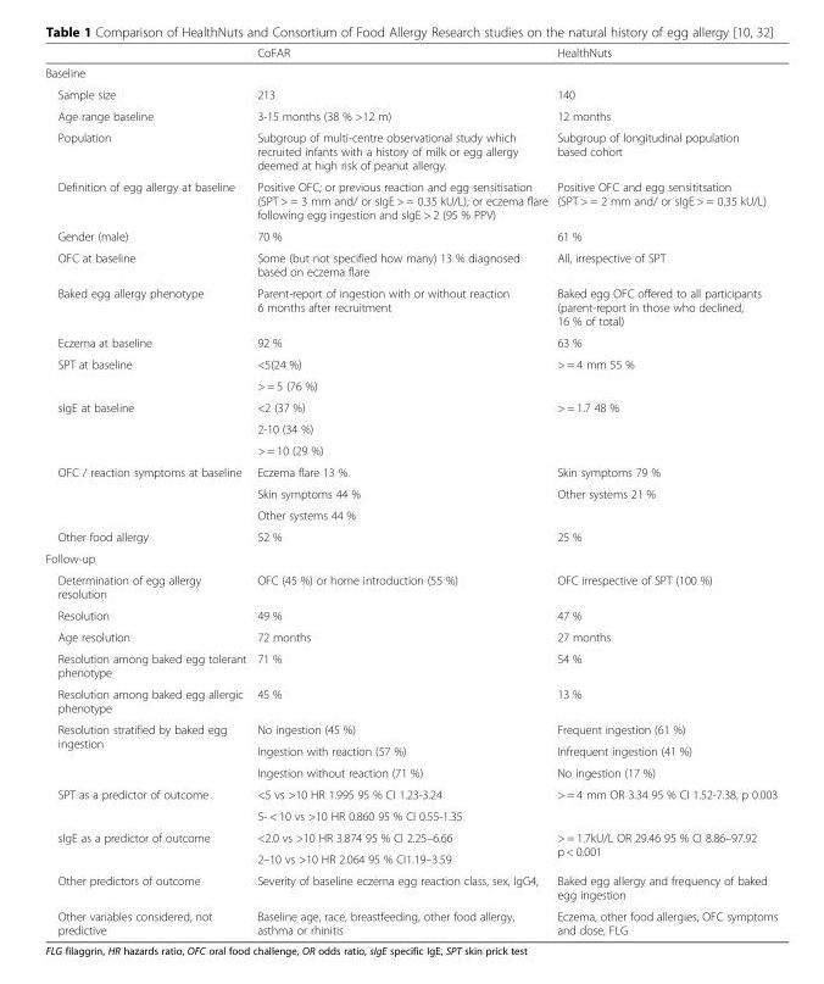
<table><thead><tr><td></td><td>CoFAR</td><td>HealthNuts</td></tr></thead><tbody><tr><td colspan="3">Baseline</td></tr><tr><td>Sample size</td><td>213</td><td>140</td></tr><tr><td>Age range baseline</td><td>3-15 months (38 % &gt;12 m)</td><td>12 months</td></tr><tr><td>Population</td><td>Subgroup of multi-centre observational study which recruited infants with a history of milk or egg allergy deemed at high risk of peanut allergy.</td><td>Subgroup of longitudinal population based cohort</td></tr><tr><td>Definition of egg allergy at baseline</td><td>Positive OFC; or previous reaction and egg sensitisation (SPT &gt; = 3 mm and/ or sIgE &gt; = 0.35 kU/L); or eczema flare following egg ingestion and sIgE &gt; 2 (95 % PPV)</td><td>Positive OFC and egg sensititsation (SPT &gt; = 2 mm and/ or sIgE &gt; = 0.35 kU/L)</td></tr><tr><td>Gender (male)</td><td>70 %</td><td>61 %</td></tr><tr><td>OFC at baseline</td><td>Some (but not specified how many) 13 % diagnosed based on eczema flare</td><td>All, irrespective of SPT</td></tr><tr><td>Baked egg allergy phenotype</td><td>Parent-report of ingestion with or without reaction 6 months after recruitment</td><td>Baked egg OFC offered to all participants (parent-report in those who declined, 16 % of total)</td></tr><tr><td>Eczema at baseline</td><td>92 %</td><td>63 %</td></tr><tr><td rowspan="2">SPT at baseline</td><td>&lt;5(24 %)</td><td rowspan="2">&gt; = 4 mm 55 %</td></tr><tr><td>&gt; = 5 (76 %)</td></tr><tr><td rowspan="3">sIgE at baseline</td><td>&lt;2 (37 %)</td><td rowspan="3">&gt; = 1.7 48 %</td></tr><tr><td>2-10 (34 %)</td></tr><tr><td>&gt; = 10 (29 %)</td></tr><tr><td rowspan="3">OFC / reaction symptoms at baseline</td><td>Eczema flare 13 %</td><td>Skin symptoms 79 %</td></tr><tr><td>Skin symptoms 44 %</td><td rowspan="2">Other systems 21 %</td></tr><tr><td>Other systems 44 %</td></tr><tr><td>Other food allergy</td><td>52 %</td><td>25 %</td></tr><tr><td colspan="3">Follow-up</td></tr><tr><td>Determination of egg allergy resolution</td><td>OFC (45 %) or home introduction (55 %)</td><td>OFC irrespective of SPT (100 %)</td></tr><tr><td>Resolution</td><td>49 %</td><td>47 %</td></tr><tr><td>Age resolution</td><td>72 months</td><td>27 months</td></tr><tr><td>Resolution among baked egg tolerant phenotype</td><td>71 %</td><td>54 %</td></tr><tr><td>Resolution among baked egg allergic phenotype</td><td>45 %</td><td>13 %</td></tr><tr><td rowspan="3">Resolution stratified by baked egg ingestion</td><td>No ingestion (45 %)</td><td>Frequent ingestion (61 %)</td></tr><tr><td>Ingestion with reaction (57 %)</td><td>Infrequent ingestion (41 %)</td></tr><tr><td>Ingestion without reaction (71 %)</td><td>No ingestion (17 %)</td></tr><tr><td rowspan="2">SPT as a predictor of outcome</td><td>&lt;5 vs &gt;10 HR 1.995 95 % CI 1.23-3.24</td><td rowspan="2">&gt; = 4 mm OR 3.34 95 % CI 1.52-7.38, p 0.003</td></tr><tr><td>5- &lt; 10 vs &gt;10 HR 0.860 95 % CI 0.55-1.35</td></tr><tr><td rowspan="2">sIgE as a predictor of outcome</td><td>&lt;2.0 vs &gt;10 HR 3.874 95 % CI 2.25–6.66</td><td rowspan="2">&gt; = 1.7kU/L OR 29.46 95 % CI 8.86–97.92 p &lt; 0.001</td></tr><tr><td>2–10 vs &gt;10 HR 2.064 95 % CI1.19–3.59</td></tr><tr><td>Other predictors of outcome</td><td>Severity of baseline eczema egg reaction class, sex, IgG4,</td><td>Baked egg allergy and frequency of baked egg ingestion</td></tr><tr><td>Other variables considered, not predictive</td><td>Baseline age, race, breastfeeding, other food allergy, asthma or rhinitis</td><td>Eczema, other food allergies, OFC symptoms and dose, FLG</td></tr></tbody></table>